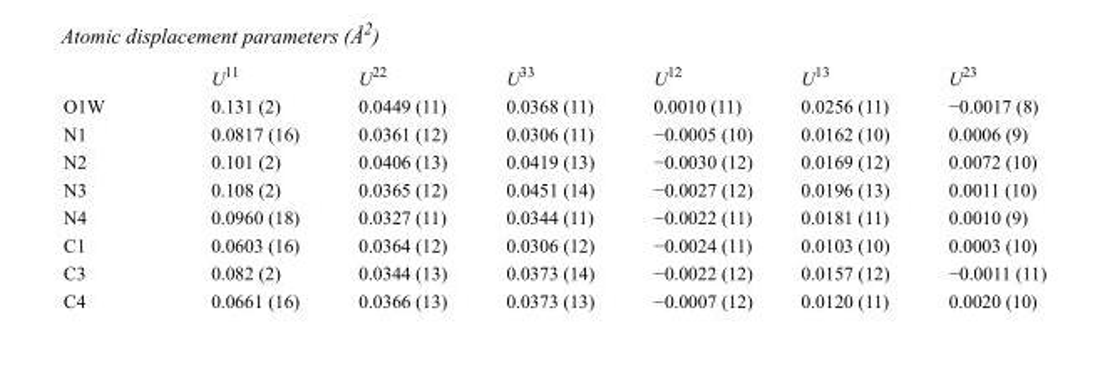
<table><thead><tr><td></td><td>U<sup>11</sup></td><td>U<sup>22</sup></td><td>U<sup>33</sup></td><td>U<sup>12</sup></td><td>U<sup>13</sup></td><td>U<sup>23</sup></td></tr></thead><tbody><tr><td>O1W</td><td>0.131 (2)</td><td>0.0449 (11)</td><td>0.0368 (11)</td><td>0.0010 (11)</td><td>0.0256 (11)</td><td>−0.0017 (8)</td></tr><tr><td>N1</td><td>0.0817 (16)</td><td>0.0361 (12)</td><td>0.0306 (11)</td><td>−0.0005 (10)</td><td>0.0162 (10)</td><td>0.0006 (9)</td></tr><tr><td>N2</td><td>0.101 (2)</td><td>0.0406 (13)</td><td>0.0419 (13)</td><td>−0.0030 (12)</td><td>0.0169 (12)</td><td>0.0072 (10)</td></tr><tr><td>N3</td><td>0.108 (2)</td><td>0.0365 (12)</td><td>0.0451 (14)</td><td>−0.0027 (12)</td><td>0.0196 (13)</td><td>0.0011 (10)</td></tr><tr><td>N4</td><td>0.0960 (18)</td><td>0.0327 (11)</td><td>0.0344 (11)</td><td>−0.0022 (11)</td><td>0.0181 (11)</td><td>0.0010 (9)</td></tr><tr><td>C1</td><td>0.0603 (16)</td><td>0.0364 (12)</td><td>0.0306 (12)</td><td>−0.0024 (11)</td><td>0.0103 (10)</td><td>0.0003 (10)</td></tr><tr><td>C3</td><td>0.082 (2)</td><td>0.0344 (13)</td><td>0.0373 (14)</td><td>−0.0022 (12)</td><td>0.0157 (12)</td><td>−0.0011 (11)</td></tr><tr><td>C4</td><td>0.0661 (16)</td><td>0.0366 (13)</td><td>0.0373 (13)</td><td>−0.0007 (12)</td><td>0.0120 (11)</td><td>0.0020 (10)</td></tr></tbody></table>